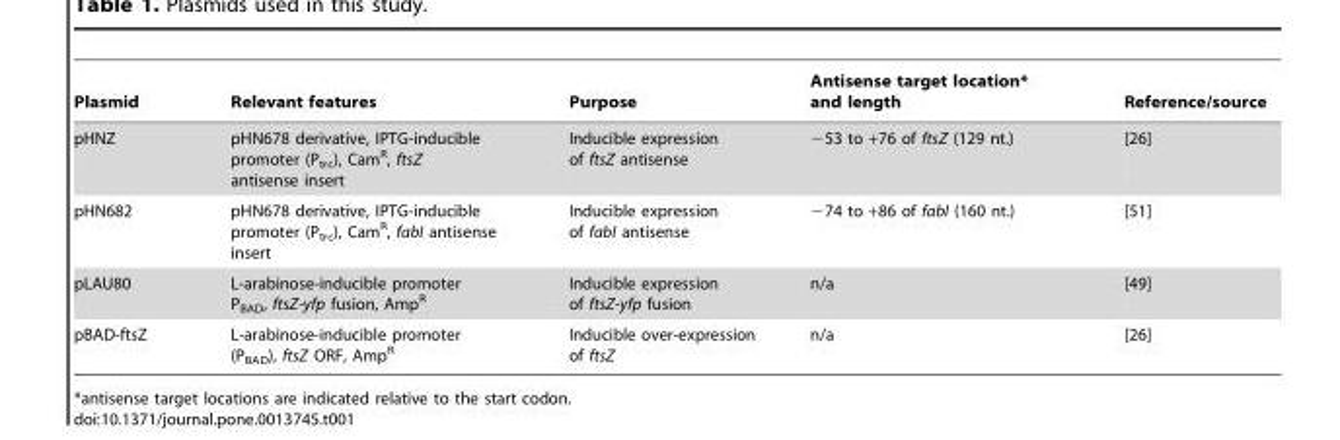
<table><thead><tr><td>Plasmid</td><td>Relevant features</td><td>Purpose</td><td>Antisense target location* and length</td><td>Reference/source</td></tr></thead><tbody><tr><td>pHNZ</td><td>pHN678 derivative, IPTG-inducible promoter (P<sub>trc</sub>), Cam<sup>R</sup>, ftsZ antisense insert</td><td>Inducible expression of ftsZ antisense</td><td>−53 to +76 of ftsZ (129 nt.)</td><td>[26]</td></tr><tr><td>pHN682</td><td>pHN678 derivative, IPTG-inducible promoter (P<sub>trc</sub>), Cam<sup>R</sup>, fabI antisense insert</td><td>Inducible expression of fabI antisense</td><td>−74 to +86 of fabI (160 nt.)</td><td>[51]</td></tr><tr><td>pLAU80</td><td>L-arabinose-inducible promoter P<sub>BAD</sub>, ftsZ-yfp fusion, Amp<sup>R</sup></td><td>Inducible expression of ftsZ-yfp fusion</td><td>n/a</td><td>[49]</td></tr><tr><td>pBAD-ftsZ</td><td>L-arabinose-inducible promoter (P<sub>BAD</sub>), ftsZ ORF, Amp<sup>R</sup></td><td>Inducible over-expression of ftsZ</td><td>n/a</td><td>[26]</td></tr></tbody></table>